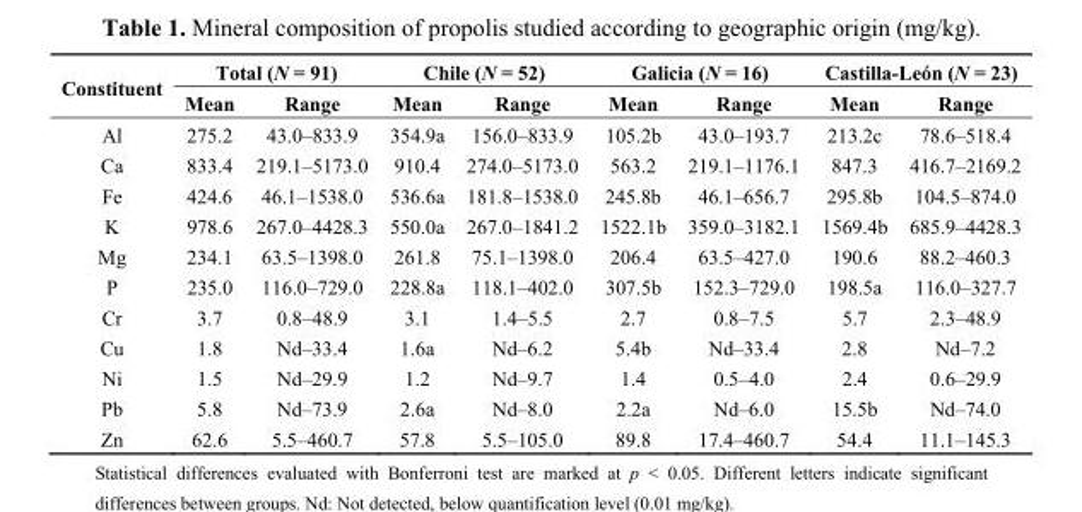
<table><thead><tr><td rowspan="2">Constituent</td><td colspan="2">Total (N = 91)</td><td colspan="2">Chile (N = 52)</td><td colspan="2">Galicia (N = 16)</td><td colspan="2">Castilla-León (N = 23)</td></tr><tr><td>Mean</td><td>Range</td><td>Mean</td><td>Range</td><td>Mean</td><td>Range</td><td>Mean</td><td>Range</td></tr></thead><tbody><tr><td>Al</td><td>275.2</td><td>43.0–833.9</td><td>354.9a</td><td>156.0–833.9</td><td>105.2b</td><td>43.0–193.7</td><td>213.2c</td><td>78.6–518.4</td></tr><tr><td>Ca</td><td>833.4</td><td>219.1–5173.0</td><td>910.4</td><td>274.0–5173.0</td><td>563.2</td><td>219.1–1176.1</td><td>847.3</td><td>416.7–2169.2</td></tr><tr><td>Fe</td><td>424.6</td><td>46.1–1538.0</td><td>536.6a</td><td>181.8–1538.0</td><td>245.8b</td><td>46.1–656.7</td><td>295.8b</td><td>104.5–874.0</td></tr><tr><td>K</td><td>978.6</td><td>267.0–4428.3</td><td>550.0a</td><td>267.0–1841.2</td><td>1522.1b</td><td>359.0–3182.1</td><td>1569.4b</td><td>685.9–4428.3</td></tr><tr><td>Mg</td><td>234.1</td><td>63.5–1398.0</td><td>261.8</td><td>75.1–1398.0</td><td>206.4</td><td>63.5–427.0</td><td>190.6</td><td>88.2–460.3</td></tr><tr><td>P</td><td>235.0</td><td>116.0–729.0</td><td>228.8a</td><td>118.1–402.0</td><td>307.5b</td><td>152.3–729.0</td><td>198.5a</td><td>116.0–327.7</td></tr><tr><td>Cr</td><td>3.7</td><td>0.8–48.9</td><td>3.1</td><td>1.4–5.5</td><td>2.7</td><td>0.8–7.5</td><td>5.7</td><td>2.3–48.9</td></tr><tr><td>Cu</td><td>1.8</td><td>Nd–33.4</td><td>1.6a</td><td>Nd–6.2</td><td>5.4b</td><td>Nd–33.4</td><td>2.8</td><td>Nd–7.2</td></tr><tr><td>Ni</td><td>1.5</td><td>Nd–29.9</td><td>1.2</td><td>Nd–9.7</td><td>1.4</td><td>0.5–4.0</td><td>2.4</td><td>0.6–29.9</td></tr><tr><td>Pb</td><td>5.8</td><td>Nd–73.9</td><td>2.6a</td><td>Nd–8.0</td><td>2.2a</td><td>Nd–6.0</td><td>15.5b</td><td>Nd–74.0</td></tr><tr><td>Zn</td><td>62.6</td><td>5.5–460.7</td><td>57.8</td><td>5.5–105.0</td><td>89.8</td><td>17.4–460.7</td><td>54.4</td><td>11.1–145.3</td></tr></tbody></table>